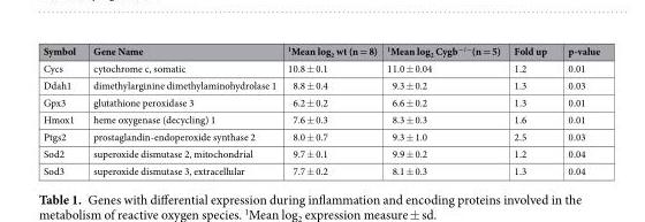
<table><thead><tr><td>Symbol</td><td>Gene Name</td><td><sup>1</sup>Mean log<sub>2</sub> wt (n = 8)</td><td><sup>1</sup>Mean log<sub>2</sub> Cygb<sup>−/−</sup>(n = 5)</td><td>Fold up</td><td>p-value</td></tr></thead><tbody><tr><td>Cycs</td><td>cytochrome c, somatic</td><td>10.8 ± 0.1</td><td>11.0 ± 0.04</td><td>1.2</td><td>0.01</td></tr><tr><td>Ddah1</td><td>dimethylarginine dimethylaminohydrolase 1</td><td>8.8 ± 0.4</td><td>9.3 ± 0.2</td><td>1.3</td><td>0.03</td></tr><tr><td>Gpx3</td><td>glutathione peroxidase 3</td><td>6.2 ± 0.2</td><td>6.6 ± 0.2</td><td>1.3</td><td>0.01</td></tr><tr><td>Hmox1</td><td>heme oxygenase (decycling) 1</td><td>7.6 ± 0.3</td><td>8.3 ± 0.3</td><td>1.6</td><td>0.01</td></tr><tr><td>Ptgs2</td><td>prostaglandin-endoperoxide synthase 2</td><td>8.0 ± 0.7</td><td>9.3 ± 1.0</td><td>2.5</td><td>0.03</td></tr><tr><td>Sod2</td><td>superoxide dismutase 2, mitochondrial</td><td>9.7 ± 0.1</td><td>9.9 ± 0.2</td><td>1.2</td><td>0.04</td></tr><tr><td>Sod3</td><td>superoxide dismutase 3, extracellular</td><td>7.7 ± 0.2</td><td>8.1 ± 0.3</td><td>1.3</td><td>0.04</td></tr></tbody></table>